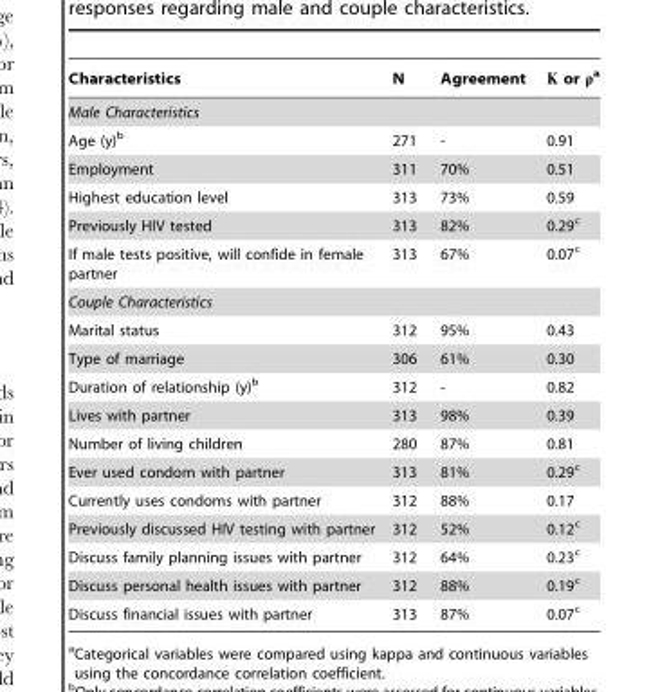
<table><thead><tr><td>Characteristics</td><td>N</td><td>Agreement</td><td>K or ρa</td></tr></thead><tbody><tr><td colspan="4">Male Characteristics</td></tr><tr><td>Age (y)<sup>b</sup></td><td>271</td><td>-</td><td>0.91</td></tr><tr><td>Employment</td><td>311</td><td>70%</td><td>0.51</td></tr><tr><td>Highest education level</td><td>313</td><td>73%</td><td>0.59</td></tr><tr><td>Previously HIV tested</td><td>313</td><td>82%</td><td>0.29<sup>c</sup></td></tr><tr><td>If male tests positive, will confide in female partner</td><td>313</td><td>67%</td><td>0.07<sup>c</sup></td></tr><tr><td colspan="4">Couple Characteristics</td></tr><tr><td>Marital status</td><td>312</td><td>95%</td><td>0.43</td></tr><tr><td>Type of marriage</td><td>306</td><td>61%</td><td>0.30</td></tr><tr><td>Duration of relationship (y)<sup>b</sup></td><td>312</td><td>-</td><td>0.82</td></tr><tr><td>Lives with partner</td><td>313</td><td>98%</td><td>0.39</td></tr><tr><td>Number of living children</td><td>280</td><td>87%</td><td>0.81</td></tr><tr><td>Ever used condom with partner</td><td>313</td><td>81%</td><td>0.29<sup>c</sup></td></tr><tr><td>Currently uses condoms with partner</td><td>312</td><td>88%</td><td>0.17</td></tr><tr><td>Previously discussed HIV testing with partner</td><td>312</td><td>52%</td><td>0.12<sup>c</sup></td></tr><tr><td>Discuss family planning issues with partner</td><td>312</td><td>64%</td><td>0.23<sup>c</sup></td></tr><tr><td>Discuss personal health issues with partner</td><td>312</td><td>88%</td><td>0.19<sup>c</sup></td></tr><tr><td>Discuss financial issues with partner</td><td>313</td><td>87%</td><td>0.07<sup>c</sup></td></tr></tbody></table>